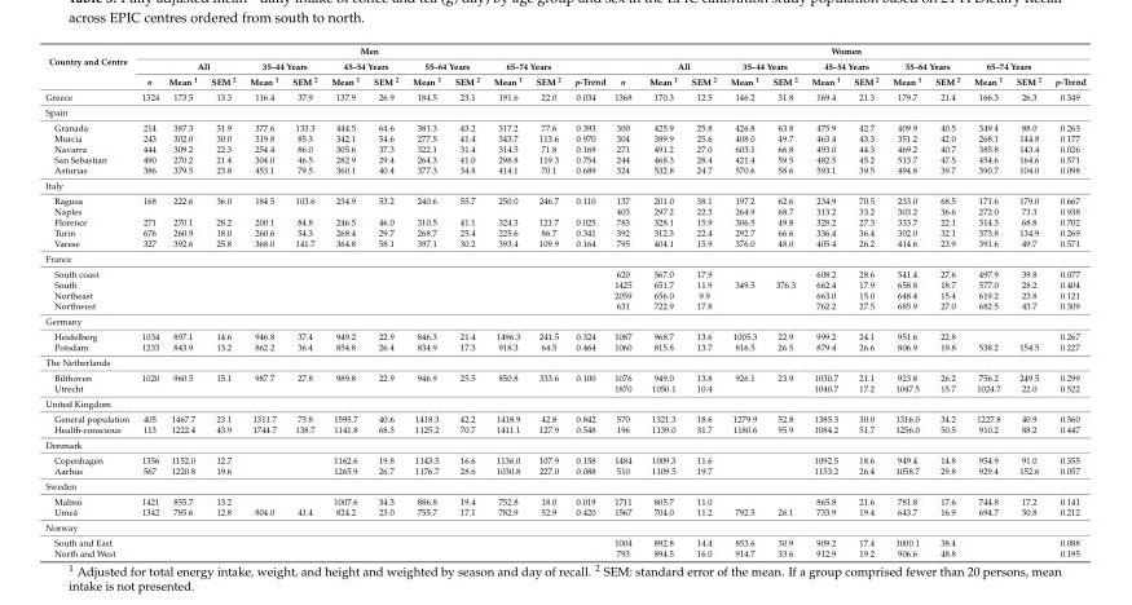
<table><thead><tr><td rowspan="3">Country and Centre</td><td colspan="12">Men</td><td colspan="12">Women</td></tr><tr><td rowspan="2">n</td><td colspan="2">All</td><td colspan="2">35–44 Years</td><td colspan="2">45–54 Years</td><td colspan="2">55–64 Years</td><td colspan="2">65–74 Years</td><td rowspan="2">p-Trend</td><td rowspan="2">n</td><td colspan="2">All</td><td colspan="2">35–44 Years</td><td colspan="2">45–54 Years</td><td colspan="2">55–64 Years</td><td colspan="2">65–74 Years</td><td rowspan="2">p-Trend</td></tr><tr><td>Mean <sup>1</sup></td><td>SEM <sup>2</sup></td><td>Mean <sup>1</sup></td><td>SEM <sup>2</sup></td><td>Mean <sup>1</sup></td><td>SEM <sup>2</sup></td><td>Mean <sup>1</sup></td><td>SEM <sup>2</sup></td><td>Mean <sup>1</sup></td><td>SEM <sup>2</sup></td><td>Mean <sup>1</sup></td><td>SEM <sup>2</sup></td><td>Mean <sup>1</sup></td><td>SEM <sup>2</sup></td><td>Mean <sup>1</sup></td><td>SEM <sup>2</sup></td><td>Mean <sup>1</sup></td><td>SEM <sup>2</sup></td><td>Mean <sup>1</sup></td><td>SEM <sup>2</sup></td></tr></thead><tbody><tr><td>Greece</td><td>1324</td><td>173.5</td><td>13.3</td><td>116.4</td><td>37.9</td><td>137.9</td><td>26.9</td><td>184.5</td><td>23.1</td><td>191.6</td><td>22.0</td><td>0.034</td><td>1368</td><td>170.3</td><td>12.5</td><td>146.2</td><td>31.8</td><td>169.4</td><td>21.3</td><td>179.7</td><td>21.4</td><td>166.3</td><td>26.3</td><td>0.349</td></tr><tr><td colspan="25">Spain</td></tr><tr><td>Granada</td><td>214</td><td>387.3</td><td>31.9</td><td>377.6</td><td>133.3</td><td>444.5</td><td>64.6</td><td>381.3</td><td>43.2</td><td>317.2</td><td>77.6</td><td>0.393</td><td>300</td><td>425.9</td><td>25.8</td><td>426.8</td><td>63.8</td><td>475.9</td><td>42.7</td><td>409.9</td><td>40.5</td><td>349.4</td><td>88.0</td><td>0.263</td></tr><tr><td>Murcia</td><td>243</td><td>302.0</td><td>30.0</td><td>319.8</td><td>85.3</td><td>342.1</td><td>54.6</td><td>277.5</td><td>41.4</td><td>343.7</td><td>113.6</td><td>0.970</td><td>304</td><td>389.9</td><td>25.6</td><td>408.0</td><td>49.7</td><td>463.4</td><td>43.3</td><td>351.2</td><td>42.0</td><td>268.1</td><td>144.8</td><td>0.177</td></tr><tr><td>Navarra</td><td>444</td><td>309.2</td><td>22.3</td><td>254.4</td><td>86.0</td><td>305.6</td><td>37.3</td><td>322.1</td><td>31.4</td><td>314.5</td><td>71.8</td><td>0.169</td><td>271</td><td>491.2</td><td>27.0</td><td>603.1</td><td>66.8</td><td>493.0</td><td>44.3</td><td>469.2</td><td>40.7</td><td>385.8</td><td>143.4</td><td>0.026</td></tr><tr><td>San Sebastian</td><td>490</td><td>270.2</td><td>21.4</td><td>304.0</td><td>46.5</td><td>282.9</td><td>29.4</td><td>264.3</td><td>41.0</td><td>298.8</td><td>119.3</td><td>0.754</td><td>244</td><td>468.3</td><td>28.4</td><td>421.4</td><td>59.5</td><td>482.5</td><td>45.2</td><td>513.7</td><td>47.5</td><td>454.6</td><td>164.6</td><td>0.571</td></tr><tr><td>Asturias</td><td>386</td><td>379.5</td><td>23.8</td><td>453.1</td><td>79.5</td><td>360.1</td><td>40.4</td><td>377.3</td><td>34.8</td><td>414.1</td><td>70.1</td><td>0.689</td><td>324</td><td>532.8</td><td>24.7</td><td>570.6</td><td>58.6</td><td>593.1</td><td>39.5</td><td>494.8</td><td>39.7</td><td>390.7</td><td>104.0</td><td>0.098</td></tr><tr><td colspan="25">Italy</td></tr><tr><td>Ragusa</td><td>168</td><td>222.6</td><td>36.0</td><td>184.5</td><td>103.6</td><td>234.9</td><td>53.2</td><td>240.6</td><td>55.7</td><td>250.0</td><td>246.7</td><td>0.110</td><td>137</td><td>201.0</td><td>38.1</td><td>197.2</td><td>62.6</td><td>234.9</td><td>70.5</td><td>233.0</td><td>68.5</td><td>171.6</td><td>179.0</td><td>0.667</td></tr><tr><td>Naples</td><td></td><td></td><td></td><td></td><td></td><td></td><td></td><td></td><td></td><td></td><td></td><td></td><td>403</td><td>297.2</td><td>22.3</td><td>264.9</td><td>68.7</td><td>313.2</td><td>33.2</td><td>303.2</td><td>36.6</td><td>272.0</td><td>73.3</td><td>0.938</td></tr><tr><td>Florence</td><td>271</td><td>270.1</td><td>28.2</td><td>200.1</td><td>84.8</td><td>246.5</td><td>46.0</td><td>310.5</td><td>41.1</td><td>324.3</td><td>121.7</td><td>0.025</td><td>783</td><td>328.1</td><td>15.9</td><td>306.5</td><td>49.8</td><td>328.2</td><td>27.3</td><td>333.7</td><td>22.1</td><td>314.3</td><td>68.8</td><td>0.702</td></tr><tr><td>Turin</td><td>676</td><td>260.9</td><td>18.0</td><td>260.6</td><td>54.3</td><td>268.4</td><td>29.7</td><td>268.7</td><td>25.4</td><td>225.6</td><td>86.7</td><td>0.341</td><td>392</td><td>312.3</td><td>22.4</td><td>292.7</td><td>66.6</td><td>336.4</td><td>36.4</td><td>302.0</td><td>32.1</td><td>373.8</td><td>134.9</td><td>0.269</td></tr><tr><td>Varese</td><td>327</td><td>392.6</td><td>25.8</td><td>368.0</td><td>141.7</td><td>364.8</td><td>58.1</td><td>397.1</td><td>30.2</td><td>393.4</td><td>109.9</td><td>0.164</td><td>795</td><td>404.1</td><td>15.9</td><td>376.0</td><td>48.0</td><td>405.4</td><td>26.2</td><td>414.6</td><td>23.9</td><td>391.6</td><td>49.7</td><td>0.571</td></tr><tr><td colspan="25">France</td></tr><tr><td>South coast</td><td></td><td></td><td></td><td></td><td></td><td></td><td></td><td></td><td></td><td></td><td></td><td></td><td>620</td><td>567.0</td><td>17.9</td><td></td><td></td><td>608.2</td><td>28.6</td><td>541.4</td><td>27.6</td><td>497.9</td><td>39.8</td><td>0.077</td></tr><tr><td>South</td><td></td><td></td><td></td><td></td><td></td><td></td><td></td><td></td><td></td><td></td><td></td><td></td><td>1425</td><td>651.7</td><td>11.9</td><td>349.5</td><td>376.3</td><td>662.4</td><td>17.9</td><td>658.8</td><td>18.7</td><td>577.0</td><td>28.2</td><td>0.404</td></tr><tr><td>Northeast</td><td></td><td></td><td></td><td></td><td></td><td></td><td></td><td></td><td></td><td></td><td></td><td></td><td>2059</td><td>656.0</td><td>9.9</td><td></td><td></td><td>663.0</td><td>15.0</td><td>648.4</td><td>15.4</td><td>619.2</td><td>23.8</td><td>0.121</td></tr><tr><td>Northwest</td><td></td><td></td><td></td><td></td><td></td><td></td><td></td><td></td><td></td><td></td><td></td><td></td><td>631</td><td>722.9</td><td>17.8</td><td></td><td></td><td>762.2</td><td>27.5</td><td>685.9</td><td>27.0</td><td>682.5</td><td>43.7</td><td>0.309</td></tr><tr><td colspan="25">Germany</td></tr><tr><td>Heidelberg</td><td>1034</td><td>897.1</td><td>14.6</td><td>946.8</td><td>37.4</td><td>949.2</td><td>22.9</td><td>846.3</td><td>21.4</td><td>1496.3</td><td>241.5</td><td>0.324</td><td>1087</td><td>968.7</td><td>13.6</td><td>1005.3</td><td>22.9</td><td>999.2</td><td>24.1</td><td>951.6</td><td>22.8</td><td></td><td></td><td>0.267</td></tr><tr><td>Potsdam</td><td>1233</td><td>843.9</td><td>13.2</td><td>862.2</td><td>36.4</td><td>854.8</td><td>26.4</td><td>834.9</td><td>17.3</td><td>918.3</td><td>64.5</td><td>0.464</td><td>1060</td><td>815.8</td><td>13.7</td><td>816.5</td><td>26.5</td><td>879.4</td><td>26.6</td><td>806.9</td><td>19.8</td><td>538.2</td><td>154.5</td><td>0.227</td></tr><tr><td colspan="25">The Netherlands</td></tr><tr><td>Bilthoven</td><td>1020</td><td>960.5</td><td>15.1</td><td>987.7</td><td>27.8</td><td>989.8</td><td>22.9</td><td>946.9</td><td>25.5</td><td>850.8</td><td>333.6</td><td>0.100</td><td>1076</td><td>949.0</td><td>13.8</td><td>926.1</td><td>23.9</td><td>1030.7</td><td>21.1</td><td>923.8</td><td>26.2</td><td>756.2</td><td>249.5</td><td>0.299</td></tr><tr><td>Utrecht</td><td></td><td></td><td></td><td></td><td></td><td></td><td></td><td></td><td></td><td></td><td></td><td></td><td>1870</td><td>1050.1</td><td>10.4</td><td></td><td></td><td>1040.7</td><td>17.2</td><td>1047.5</td><td>15.7</td><td>1024.7</td><td>22.0</td><td>0.522</td></tr><tr><td colspan="25">United Kingdom</td></tr><tr><td>General population</td><td>405</td><td>1467.7</td><td>23.1</td><td>1311.7</td><td>73.8</td><td>1595.7</td><td>40.6</td><td>1418.3</td><td>42.2</td><td>1418.9</td><td>42.8</td><td>0.842</td><td>570</td><td>1321.3</td><td>18.6</td><td>1279.9</td><td>52.8</td><td>1385.3</td><td>30.0</td><td>1316.0</td><td>34.2</td><td>1227.8</td><td>40.9</td><td>0.560</td></tr><tr><td>Health-conscious</td><td>113</td><td>1222.4</td><td>43.9</td><td>1744.7</td><td>138.7</td><td>1141.8</td><td>68.3</td><td>1125.2</td><td>70.7</td><td>1411.1</td><td>127.9</td><td>0.548</td><td>196</td><td>1139.0</td><td>31.7</td><td>1180.6</td><td>95.9</td><td>1084.2</td><td>51.7</td><td>1256.0</td><td>50.5</td><td>910.2</td><td>88.2</td><td>0.447</td></tr><tr><td colspan="25">Denmark</td></tr><tr><td>Copenhagen</td><td>1356</td><td>1152.0</td><td>12.7</td><td></td><td></td><td>1162.6</td><td>19.8</td><td>1143.5</td><td>16.6</td><td>1136.0</td><td>107.9</td><td>0.158</td><td>1484</td><td>1009.3</td><td>11.6</td><td></td><td></td><td>1092.5</td><td>18.6</td><td>949.4</td><td>14.8</td><td>954.9</td><td>91.0</td><td>0.355</td></tr><tr><td>Aarhus</td><td>567</td><td>1220.8</td><td>19.6</td><td></td><td></td><td>1265.9</td><td>26.7</td><td>1176.7</td><td>28.6</td><td>1030.8</td><td>227.0</td><td>0.088</td><td>510</td><td>1109.5</td><td>19.7</td><td></td><td></td><td>1153.2</td><td>26.4</td><td>1058.7</td><td>29.8</td><td>929.4</td><td>152.6</td><td>0.057</td></tr><tr><td colspan="25">Sweden</td></tr><tr><td>Malmö</td><td>1421</td><td>855.7</td><td>13.2</td><td></td><td></td><td>1007.6</td><td>34.3</td><td>886.8</td><td>19.4</td><td>752.8</td><td>18.0</td><td>0.019</td><td>1711</td><td>805.7</td><td>11.0</td><td></td><td></td><td>865.8</td><td>21.6</td><td>781.8</td><td>17.6</td><td>744.8</td><td>17.2</td><td>0.141</td></tr><tr><td>Umeå</td><td>1342</td><td>785.6</td><td>12.8</td><td>804.0</td><td>41.4</td><td>824.2</td><td>23.0</td><td>755.7</td><td>17.1</td><td>782.9</td><td>52.9</td><td>0.420</td><td>1567</td><td>704.0</td><td>11.2</td><td>792.5</td><td>26.1</td><td>733.9</td><td>19.4</td><td>643.7</td><td>16.9</td><td>694.7</td><td>50.8</td><td>0.212</td></tr><tr><td colspan="25">Norway</td></tr><tr><td>South and East</td><td></td><td></td><td></td><td></td><td></td><td></td><td></td><td></td><td></td><td></td><td></td><td></td><td>1004</td><td>892.8</td><td>14.4</td><td>853.6</td><td>30.9</td><td>909.2</td><td>17.4</td><td>1000.1</td><td>38.4</td><td></td><td></td><td>0.088</td></tr><tr><td>North and West</td><td></td><td></td><td></td><td></td><td></td><td></td><td></td><td></td><td></td><td></td><td></td><td></td><td>793</td><td>894.5</td><td>16.0</td><td>914.7</td><td>33.6</td><td>912.9</td><td>19.2</td><td>906.6</td><td>48.8</td><td></td><td></td><td>0.195</td></tr></tbody></table>